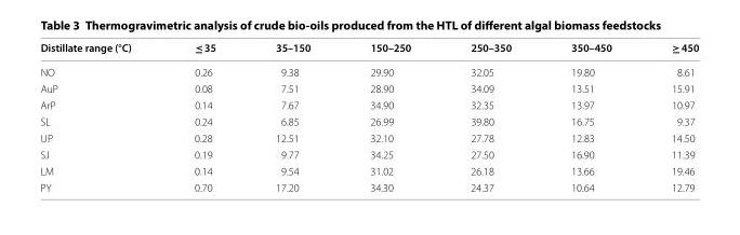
<table><thead><tr><td>Distillate range (°C)</td><td>≤ 35</td><td>35–150</td><td>150–250</td><td>250–350</td><td>350–450</td><td>≥ 450</td></tr></thead><tbody><tr><td>NO</td><td>0.26</td><td>9.38</td><td>29.90</td><td>32.05</td><td>19.80</td><td>8.61</td></tr><tr><td>AuP</td><td>0.08</td><td>7.51</td><td>28.90</td><td>34.09</td><td>13.51</td><td>15.91</td></tr><tr><td>ArP</td><td>0.14</td><td>7.67</td><td>34.90</td><td>32.35</td><td>13.97</td><td>10.97</td></tr><tr><td>SL</td><td>0.24</td><td>6.85</td><td>26.99</td><td>39.80</td><td>16.75</td><td>9.37</td></tr><tr><td>UP</td><td>0.28</td><td>12.51</td><td>32.10</td><td>27.78</td><td>12.83</td><td>14.50</td></tr><tr><td>SJ</td><td>0.19</td><td>9.77</td><td>34.25</td><td>27.50</td><td>16.90</td><td>11.39</td></tr><tr><td>LM</td><td>0.14</td><td>9.54</td><td>31.02</td><td>26.18</td><td>13.66</td><td>19.46</td></tr><tr><td>PY</td><td>0.70</td><td>17.20</td><td>34.30</td><td>24.37</td><td>10.64</td><td>12.79</td></tr></tbody></table>